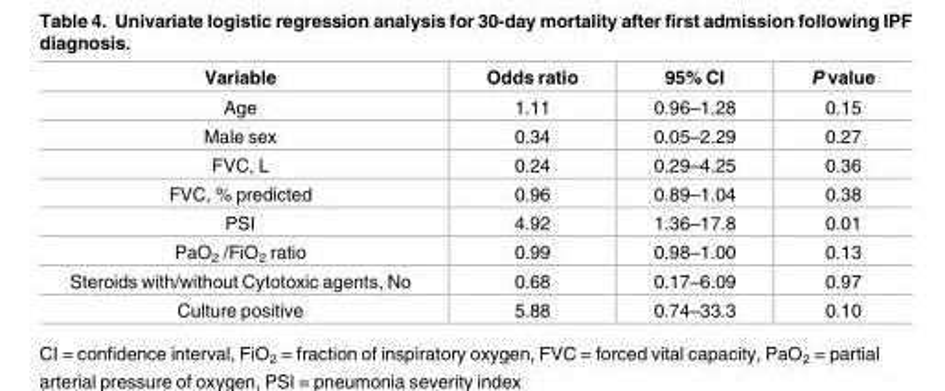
<table><thead><tr><td>Variable</td><td>Odds ratio</td><td>95% CI</td><td>P value</td></tr></thead><tbody><tr><td>Age</td><td>1.11</td><td>0.96–1.28</td><td>0.15</td></tr><tr><td>Male sex</td><td>0.34</td><td>0.05–2.29</td><td>0.27</td></tr><tr><td>FVC, L</td><td>0.24</td><td>0.29–4.25</td><td>0.36</td></tr><tr><td>FVC, % predicted</td><td>0.96</td><td>0.89–1.04</td><td>0.38</td></tr><tr><td>PSI</td><td>4.92</td><td>1.36–17.8</td><td>0.01</td></tr><tr><td>PaO<sub>2</sub> /FiO<sub>2</sub> ratio</td><td>0.99</td><td>0.98–1.00</td><td>0.13</td></tr><tr><td>Steroids with/without Cytotoxic agents, No</td><td>0.68</td><td>0.17–6.09</td><td>0.97</td></tr><tr><td>Culture positive</td><td>5.88</td><td>0.74–33.3</td><td>0.10</td></tr></tbody></table>